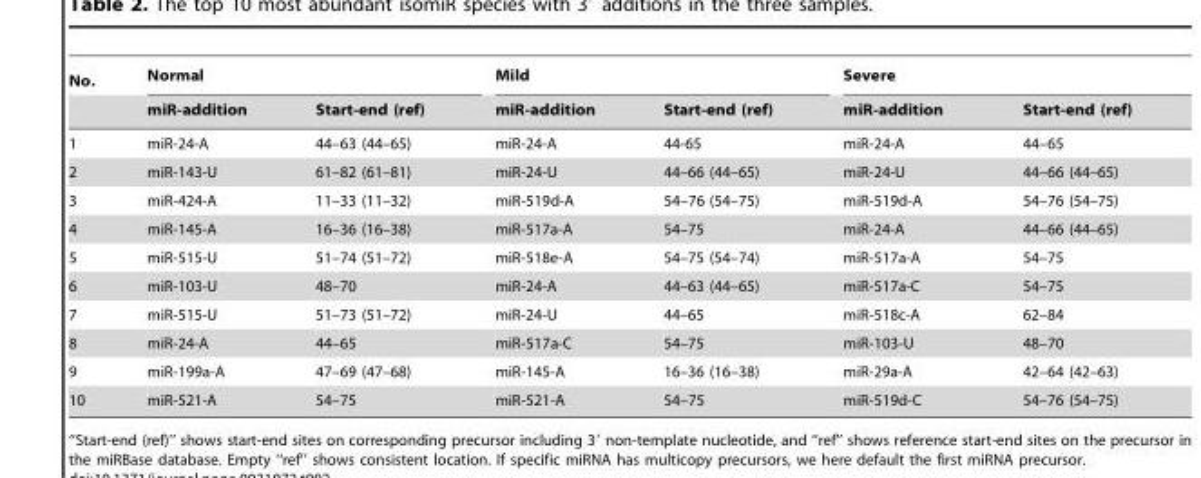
<table><thead><tr><td rowspan="2">No.</td><td colspan="2">Normal</td><td colspan="2">Mild</td><td colspan="2">Severe</td></tr><tr><td>miR-addition</td><td>Start-end (ref)</td><td>miR-addition</td><td>Start-end (ref)</td><td>miR-addition</td><td>Start-end (ref)</td></tr></thead><tbody><tr><td>1</td><td>miR-24-A</td><td>44–63 (44–65)</td><td>miR-24-A</td><td>44-65</td><td>miR-24-A</td><td>44–65</td></tr><tr><td>2</td><td>miR-143-U</td><td>61–82 (61–81)</td><td>miR-24-U</td><td>44–66 (44–65)</td><td>miR-24-U</td><td>44–66 (44–65)</td></tr><tr><td>3</td><td>miR-424-A</td><td>11–33 (11–32)</td><td>miR-519d-A</td><td>54–76 (54–75)</td><td>miR-519d-A</td><td>54–76 (54–75)</td></tr><tr><td>4</td><td>miR-145-A</td><td>16–36 (16–38)</td><td>miR-517a-A</td><td>54–75</td><td>miR-24-A</td><td>44–66 (44–65)</td></tr><tr><td>5</td><td>miR-515-U</td><td>51–74 (51–72)</td><td>miR-518e-A</td><td>54–75 (54–74)</td><td>miR-517a-A</td><td>54–75</td></tr><tr><td>6</td><td>miR-103-U</td><td>48–70</td><td>miR-24-A</td><td>44–63 (44–65)</td><td>miR-517a-C</td><td>54–75</td></tr><tr><td>7</td><td>miR-515-U</td><td>51–73 (51–72)</td><td>miR-24-U</td><td>44–65</td><td>miR-518c-A</td><td>62–84</td></tr><tr><td>8</td><td>miR-24-A</td><td>44–65</td><td>miR-517a-C</td><td>54–75</td><td>miR-103-U</td><td>48–70</td></tr><tr><td>9</td><td>miR-199a-A</td><td>47–69 (47–68)</td><td>miR-145-A</td><td>16–36 (16–38)</td><td>miR-29a-A</td><td>42–64 (42–63)</td></tr><tr><td>10</td><td>miR-521-A</td><td>54–75</td><td>miR-521-A</td><td>54–75</td><td>miR-519d-C</td><td>54–76 (54–75)</td></tr></tbody></table>